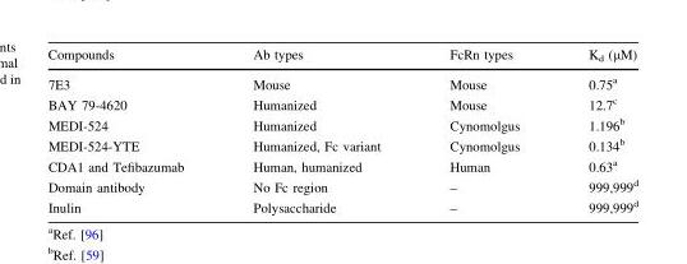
<table><thead><tr><td>Compounds</td><td>Ab types</td><td>FcRn types</td><td>K<sub>d</sub> (µM)</td></tr></thead><tbody><tr><td>7E3</td><td>Mouse</td><td>Mouse</td><td>0.75<sup>a</sup></td></tr><tr><td>BAY 79-4620</td><td>Humanized</td><td>Mouse</td><td>12.7<sup>c</sup></td></tr><tr><td>MEDI-524</td><td>Humanized</td><td>Cynomolgus</td><td>1.196<sup>b</sup></td></tr><tr><td>MEDI-524-YTE</td><td>Humanized, Fc variant</td><td>Cynomolgus</td><td>0.134<sup>b</sup></td></tr><tr><td>CDA1 and Tefibazumab</td><td>Human, humanized</td><td>Human</td><td>0.63<sup>a</sup></td></tr><tr><td>Domain antibody</td><td>No Fc region</td><td>–</td><td>999,999<sup>d</sup></td></tr><tr><td>Inulin</td><td>Polysaccharide</td><td>–</td><td>999,999<sup>d</sup></td></tr></tbody></table>